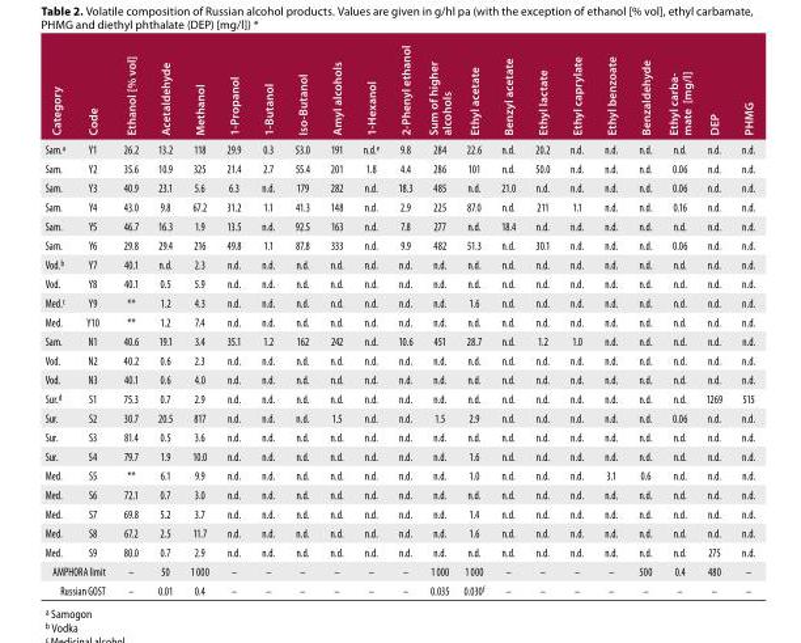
<table><thead><tr><td>Category</td><td>Code</td><td>Ethanol [% vol]</td><td>Acetaldehyde</td><td>Methanol</td><td>1-Propanol</td><td>1-Butanol</td><td>Iso-Butanol</td><td>Amyl alcohols</td><td>1-Hexanol</td><td>2-Phenyl ethanol</td><td>Sum of higher alcohols</td><td>Ethyl acetate</td><td>Benzyl acetate</td><td>Ethyl lactate</td><td>Ethyl caprylate</td><td>Ethyl benzoate</td><td>Benzaldehyde</td><td>Ethyl carba- mate [mg/l]</td><td>DEP</td><td>PHMG</td></tr></thead><tbody><tr><td>Sam.<sup>a</sup></td><td>Y1</td><td>26.2</td><td>13.2</td><td>118</td><td>29.9</td><td>0.3</td><td>53.0</td><td>191</td><td>n.d.<sup>e</sup></td><td>9.8</td><td>284</td><td>22.6</td><td>n.d.</td><td>20.2</td><td>n.d.</td><td>n.d.</td><td>n.d.</td><td>n.d.</td><td>n.d.</td><td>n.d.</td></tr><tr><td>Sam.</td><td>Y2</td><td>35.6</td><td>10.9</td><td>325</td><td>21.4</td><td>2.7</td><td>55.4</td><td>201</td><td>1.8</td><td>4.4</td><td>286</td><td>101</td><td>n.d.</td><td>50.0</td><td>n.d.</td><td>n.d.</td><td>n.d.</td><td>0.06</td><td>n.d.</td><td>n.d.</td></tr><tr><td>Sam.</td><td>Y3</td><td>40.9</td><td>23.1</td><td>5.6</td><td>6.3</td><td>n.d.</td><td>179</td><td>282</td><td>n.d.</td><td>18.3</td><td>485</td><td>n.d.</td><td>21.0</td><td>n.d.</td><td>n.d.</td><td>n.d.</td><td>n.d.</td><td>0.06</td><td>n.d.</td><td>n.d.</td></tr><tr><td>Sam.</td><td>Y4</td><td>43.0</td><td>9.8</td><td>67.2</td><td>31.2</td><td>1.1</td><td>41.3</td><td>148</td><td>n.d.</td><td>2.9</td><td>225</td><td>87.0</td><td>n.d.</td><td>211</td><td>1.1</td><td>n.d.</td><td>n.d.</td><td>0.16</td><td>n.d.</td><td>n.d.</td></tr><tr><td>Sam.</td><td>Y5</td><td>46.7</td><td>16.3</td><td>1.9</td><td>13.5</td><td>n.d.</td><td>92.5</td><td>163</td><td>n.d.</td><td>7.8</td><td>277</td><td>n.d.</td><td>18.4</td><td>n.d.</td><td>n.d.</td><td>n.d.</td><td>n.d.</td><td>n.d.</td><td>n.d.</td><td>n.d.</td></tr><tr><td>Sam.</td><td>Y6</td><td>29.8</td><td>29.4</td><td>216</td><td>49.8</td><td>1.1</td><td>87.8</td><td>333</td><td>n.d.</td><td>9.9</td><td>482</td><td>51.3</td><td>n.d.</td><td>30.1</td><td>n.d.</td><td>n.d.</td><td>n.d.</td><td>0.06</td><td>n.d.</td><td>n.d.</td></tr><tr><td>Vod.<sup>b</sup></td><td>Y7</td><td>40.1</td><td>n.d.</td><td>2.3</td><td>n.d.</td><td>n.d.</td><td>n.d.</td><td>n.d.</td><td>n.d.</td><td>n.d.</td><td>n.d.</td><td>n.d.</td><td>n.d.</td><td>n.d.</td><td>n.d.</td><td>n.d.</td><td>n.d.</td><td>n.d.</td><td>n.d.</td><td>n.d.</td></tr><tr><td>Vod.</td><td>Y8</td><td>40.1</td><td>0.5</td><td>5.9</td><td>n.d.</td><td>n.d.</td><td>n.d.</td><td>n.d.</td><td>n.d.</td><td>n.d.</td><td>n.d.</td><td>n.d.</td><td>n.d.</td><td>n.d.</td><td>n.d.</td><td>n.d.</td><td>n.d.</td><td>n.d.</td><td>n.d.</td><td>n.d.</td></tr><tr><td>Med.<sup>c</sup></td><td>Y9</td><td>**</td><td>1.2</td><td>4.3</td><td>n.d.</td><td>n.d.</td><td>n.d.</td><td>n.d.</td><td>n.d.</td><td>n.d.</td><td>n.d.</td><td>1.6</td><td>n.d.</td><td>n.d.</td><td>n.d.</td><td>n.d.</td><td>n.d.</td><td>n.d.</td><td>n.d.</td><td>n.d.</td></tr><tr><td>Med.</td><td>Y10</td><td>**</td><td>1.2</td><td>7.4</td><td>n.d.</td><td>n.d.</td><td>n.d.</td><td>n.d.</td><td>n.d.</td><td>n.d.</td><td>n.d.</td><td>n.d.</td><td>n.d.</td><td>n.d.</td><td>n.d.</td><td>n.d.</td><td>n.d.</td><td>n.d.</td><td>n.d.</td><td>n.d.</td></tr><tr><td>Sam.</td><td>N1</td><td>40.6</td><td>19.1</td><td>3.4</td><td>35.1</td><td>1.2</td><td>162</td><td>242</td><td>n.d.</td><td>10.6</td><td>451</td><td>28.7</td><td>n.d.</td><td>1.2</td><td>1.0</td><td>n.d.</td><td>n.d.</td><td>n.d.</td><td>n.d.</td><td>n.d.</td></tr><tr><td>Vod.</td><td>N2</td><td>40.2</td><td>0.6</td><td>2.3</td><td>n.d.</td><td>n.d.</td><td>n.d.</td><td>n.d.</td><td>n.d.</td><td>n.d.</td><td>n.d.</td><td>n.d.</td><td>n.d.</td><td>n.d.</td><td>n.d.</td><td>n.d.</td><td>n.d.</td><td>n.d.</td><td>n.d.</td><td>n.d.</td></tr><tr><td>Vod.</td><td>N3</td><td>40.1</td><td>0.6</td><td>4.0</td><td>n.d.</td><td>n.d.</td><td>n.d.</td><td>n.d.</td><td>n.d.</td><td>n.d.</td><td>n.d.</td><td>n.d.</td><td>n.d.</td><td>n.d.</td><td>n.d.</td><td>n.d.</td><td>n.d.</td><td>n.d.</td><td>n.d.</td><td>n.d.</td></tr><tr><td>Sur.<sup>d</sup></td><td>S1</td><td>75.3</td><td>0.7</td><td>2.9</td><td>n.d.</td><td>n.d.</td><td>n.d.</td><td>n.d.</td><td>n.d.</td><td>n.d.</td><td>n.d.</td><td>n.d.</td><td>n.d.</td><td>n.d.</td><td>n.d.</td><td>n.d.</td><td>n.d.</td><td>n.d.</td><td>1269</td><td>515</td></tr><tr><td>Sur.</td><td>S2</td><td>30.7</td><td>20.5</td><td>817</td><td>n.d.</td><td>n.d.</td><td>n.d.</td><td>1.5</td><td>n.d.</td><td>n.d.</td><td>1.5</td><td>2.9</td><td>n.d.</td><td>n.d.</td><td>n.d.</td><td>n.d.</td><td>n.d.</td><td>0.06</td><td>n.d.</td><td>n.d.</td></tr><tr><td>Sur.</td><td>S3</td><td>81.4</td><td>0.5</td><td>3.6</td><td>n.d.</td><td>n.d.</td><td>n.d.</td><td>n.d.</td><td>n.d.</td><td>n.d.</td><td>n.d.</td><td>n.d.</td><td>n.d.</td><td>n.d.</td><td>n.d.</td><td>n.d.</td><td>n.d.</td><td>n.d.</td><td>n.d.</td><td>n.d.</td></tr><tr><td>Sur.</td><td>S4</td><td>79.7</td><td>1.9</td><td>10.0</td><td>n.d.</td><td>n.d.</td><td>n.d.</td><td>n.d.</td><td>n.d.</td><td>n.d.</td><td>n.d.</td><td>1.6</td><td>n.d.</td><td>n.d.</td><td>n.d.</td><td>n.d.</td><td>n.d.</td><td>n.d.</td><td>n.d.</td><td>n.d.</td></tr><tr><td>Med.</td><td>S5</td><td>**</td><td>6.1</td><td>9.9</td><td>n.d.</td><td>n.d.</td><td>n.d.</td><td>n.d.</td><td>n.d.</td><td>n.d.</td><td>n.d.</td><td>1.0</td><td>n.d.</td><td>n.d.</td><td>n.d.</td><td>3.1</td><td>0.6</td><td>n.d.</td><td>n.d.</td><td>n.d.</td></tr><tr><td>Med.</td><td>S6</td><td>72.1</td><td>0.7</td><td>3.0</td><td>n.d.</td><td>n.d.</td><td>n.d.</td><td>n.d.</td><td>n.d.</td><td>n.d.</td><td>n.d.</td><td>n.d.</td><td>n.d.</td><td>n.d.</td><td>n.d.</td><td>n.d.</td><td>n.d.</td><td>n.d.</td><td>n.d.</td><td>n.d.</td></tr><tr><td>Med.</td><td>S7</td><td>69.8</td><td>5.2</td><td>3.7</td><td>n.d.</td><td>n.d.</td><td>n.d.</td><td>n.d.</td><td>n.d.</td><td>n.d.</td><td>n.d.</td><td>1.4</td><td>n.d.</td><td>n.d.</td><td>n.d.</td><td>n.d.</td><td>n.d.</td><td>n.d.</td><td>n.d.</td><td>n.d.</td></tr><tr><td>Med.</td><td>S8</td><td>67.2</td><td>2.5</td><td>11.7</td><td>n.d.</td><td>n.d.</td><td>n.d.</td><td>n.d.</td><td>n.d.</td><td>n.d.</td><td>n.d.</td><td>1.6</td><td>n.d.</td><td>n.d.</td><td>n.d.</td><td>n.d.</td><td>n.d.</td><td>n.d.</td><td>n.d.</td><td>n.d.</td></tr><tr><td>Med.</td><td>S9</td><td>80.0</td><td>0.7</td><td>2.9</td><td>n.d.</td><td>n.d.</td><td>n.d.</td><td>n.d.</td><td>n.d.</td><td>n.d.</td><td>n.d.</td><td>n.d.</td><td>n.d.</td><td>n.d.</td><td>n.d.</td><td>n.d.</td><td>n.d.</td><td>n.d.</td><td>275</td><td>n.d.</td></tr><tr><td colspan="2">AMPHORA limit</td><td>–</td><td>50</td><td>1 000</td><td>–</td><td>–</td><td>–</td><td>–</td><td>–</td><td>–</td><td>1 000</td><td>1 000</td><td>–</td><td>–</td><td>–</td><td>–</td><td>500</td><td>0.4</td><td>480</td><td>–</td></tr><tr><td colspan="2">Russian GOST</td><td>–</td><td>0.01</td><td>0.4</td><td>–</td><td>–</td><td>–</td><td>–</td><td>–</td><td>–</td><td>0.035</td><td>0.030<sup>f</sup></td><td>–</td><td>–</td><td>–</td><td>–</td><td>–</td><td>–</td><td>–</td><td>–</td></tr></tbody></table>